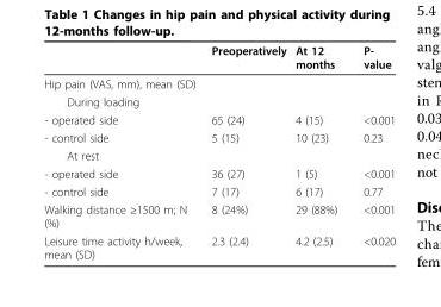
<table><thead><tr><td></td><td>Preoperatively</td><td>At 12 months</td><td>P- value</td></tr></thead><tbody><tr><td colspan="4">Hip pain (VAS, mm), mean (SD)</td></tr><tr><td colspan="4">During loading</td></tr><tr><td>- operated side</td><td>65 (24)</td><td>4 (15)</td><td>&lt;0.001</td></tr><tr><td>- control side</td><td>5 (15)</td><td>10 (23)</td><td>0.23</td></tr><tr><td colspan="4">At rest</td></tr><tr><td>- operated side</td><td>36 (27)</td><td>1 (5)</td><td>&lt;0.001</td></tr><tr><td>- control side</td><td>7 (17)</td><td>6 (17)</td><td>0.77</td></tr><tr><td>Walking distance ≥1500 m; N (%)</td><td>8 (24%)</td><td>29 (88%)</td><td>&lt;0.001</td></tr><tr><td>Leisure time activity h/week, mean (SD)</td><td>2.3 (2.4)</td><td>4.2 (2.5)</td><td>&lt;0.020</td></tr></tbody></table>